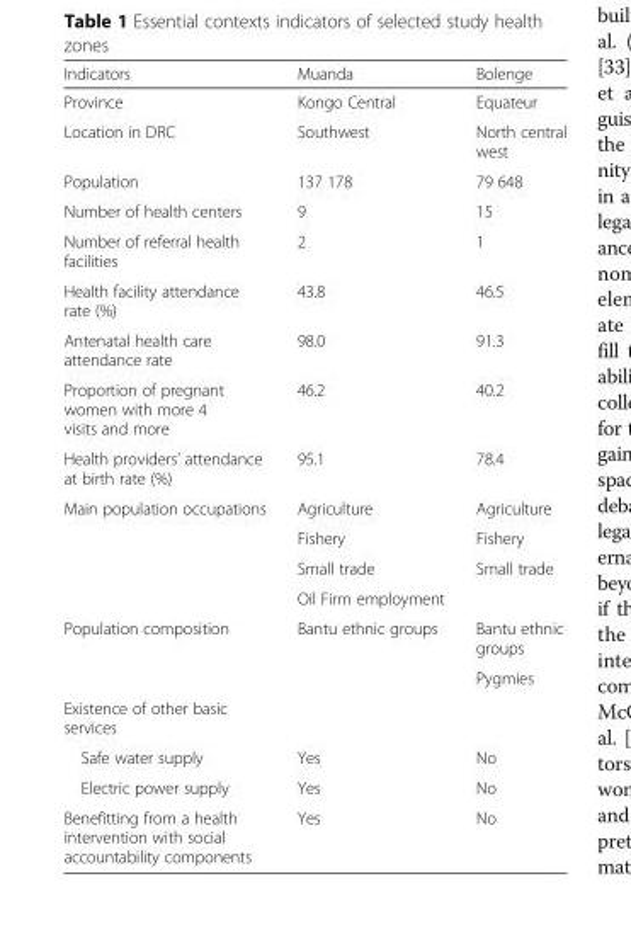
<table><thead><tr><td>Indicators</td><td>Muanda</td><td>Bolenge</td></tr></thead><tbody><tr><td>Province</td><td>Kongo Central</td><td>Equateur</td></tr><tr><td>Location in DRC</td><td>Southwest</td><td>North central west</td></tr><tr><td>Population</td><td>137 178</td><td>79 648</td></tr><tr><td>Number of health centers</td><td>9</td><td>15</td></tr><tr><td>Number of referral health facilities</td><td>2</td><td>1</td></tr><tr><td>Health facility attendance rate (%)</td><td>43.8</td><td>46.5</td></tr><tr><td>Antenatal health care attendance rate</td><td>98.0</td><td>91.3</td></tr><tr><td>Proportion of pregnant women with more 4 visits and more</td><td>46.2</td><td>40.2</td></tr><tr><td>Health providers’ attendance at birth rate (%)</td><td>95.1</td><td>78.4</td></tr><tr><td rowspan="4">Main population occupations</td><td>Agriculture</td><td>Agriculture</td></tr><tr><td>Fishery</td><td>Fishery</td></tr><tr><td>Small trade</td><td rowspan="2">Small trade</td></tr><tr><td>Oil Firm employment</td></tr><tr><td rowspan="2">Population composition</td><td rowspan="2">Bantu ethnic groups</td><td>Bantu ethnic groups</td></tr><tr><td>Pygmies</td></tr><tr><td colspan="3">Existence of other basic services</td></tr><tr><td>Safe water supply</td><td>Yes</td><td>No</td></tr><tr><td>Electric power supply</td><td>Yes</td><td>No</td></tr><tr><td>Benefitting from a health intervention with social accountability components</td><td>Yes</td><td>No</td></tr></tbody></table>